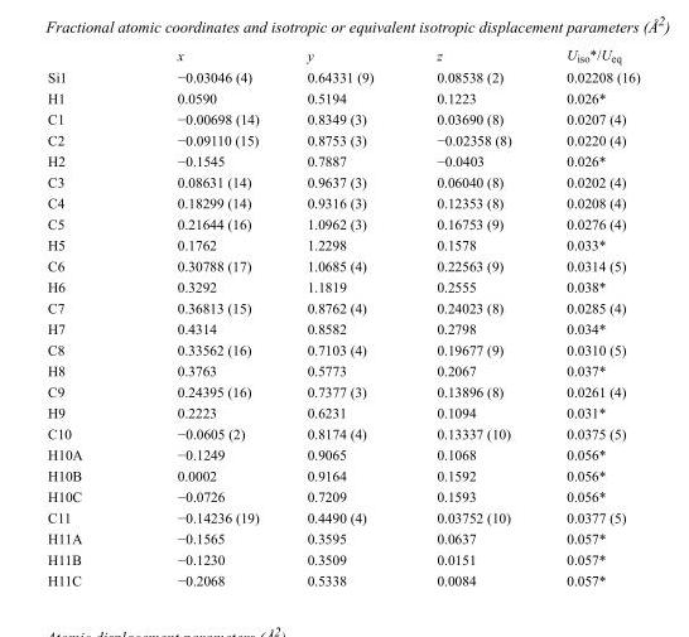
<table><thead><tr><td></td><td>x</td><td>y</td><td>z</td><td>U<sub>iso</sub>*/U<sub>eq</sub></td></tr></thead><tbody><tr><td>Si1</td><td>−0.03046 (4)</td><td>0.64331 (9)</td><td>0.08538 (2)</td><td>0.02208 (16)</td></tr><tr><td>H1</td><td>0.0590</td><td>0.5194</td><td>0.1223</td><td>0.026*</td></tr><tr><td>C1</td><td>−0.00698 (14)</td><td>0.8349 (3)</td><td>0.03690 (8)</td><td>0.0207 (4)</td></tr><tr><td>C2</td><td>−0.09110 (15)</td><td>0.8753 (3)</td><td>−0.02358 (8)</td><td>0.0220 (4)</td></tr><tr><td>H2</td><td>−0.1545</td><td>0.7887</td><td>−0.0403</td><td>0.026*</td></tr><tr><td>C3</td><td>0.08631 (14)</td><td>0.9637 (3)</td><td>0.06040 (8)</td><td>0.0202 (4)</td></tr><tr><td>C4</td><td>0.18299 (14)</td><td>0.9316 (3)</td><td>0.12353 (8)</td><td>0.0208 (4)</td></tr><tr><td>C5</td><td>0.21644 (16)</td><td>1.0962 (3)</td><td>0.16753 (9)</td><td>0.0276 (4)</td></tr><tr><td>H5</td><td>0.1762</td><td>1.2298</td><td>0.1578</td><td>0.033*</td></tr><tr><td>C6</td><td>0.30788 (17)</td><td>1.0685 (4)</td><td>0.22563 (9)</td><td>0.0314 (5)</td></tr><tr><td>H6</td><td>0.3292</td><td>1.1819</td><td>0.2555</td><td>0.038*</td></tr><tr><td>C7</td><td>0.36813 (15)</td><td>0.8762 (4)</td><td>0.24023 (8)</td><td>0.0285 (4)</td></tr><tr><td>H7</td><td>0.4314</td><td>0.8582</td><td>0.2798</td><td>0.034*</td></tr><tr><td>C8</td><td>0.33562 (16)</td><td>0.7103 (4)</td><td>0.19677 (9)</td><td>0.0310 (5)</td></tr><tr><td>H8</td><td>0.3763</td><td>0.5773</td><td>0.2067</td><td>0.037*</td></tr><tr><td>C9</td><td>0.24395 (16)</td><td>0.7377 (3)</td><td>0.13896 (8)</td><td>0.0261 (4)</td></tr><tr><td>H9</td><td>0.2223</td><td>0.6231</td><td>0.1094</td><td>0.031*</td></tr><tr><td>C10</td><td>−0.0605 (2)</td><td>0.8174 (4)</td><td>0.13337 (10)</td><td>0.0375 (5)</td></tr><tr><td>H10A</td><td>−0.1249</td><td>0.9065</td><td>0.1068</td><td>0.056*</td></tr><tr><td>H10B</td><td>0.0002</td><td>0.9164</td><td>0.1592</td><td>0.056*</td></tr><tr><td>H10C</td><td>−0.0726</td><td>0.7209</td><td>0.1593</td><td>0.056*</td></tr><tr><td>C11</td><td>−0.14236 (19)</td><td>0.4490 (4)</td><td>0.03752 (10)</td><td>0.0377 (5)</td></tr><tr><td>H11A</td><td>−0.1565</td><td>0.3595</td><td>0.0637</td><td>0.057*</td></tr><tr><td>H11B</td><td>−0.1230</td><td>0.3509</td><td>0.0151</td><td>0.057*</td></tr><tr><td>H11C</td><td>−0.2068</td><td>0.5338</td><td>0.0084</td><td>0.057*</td></tr></tbody></table>